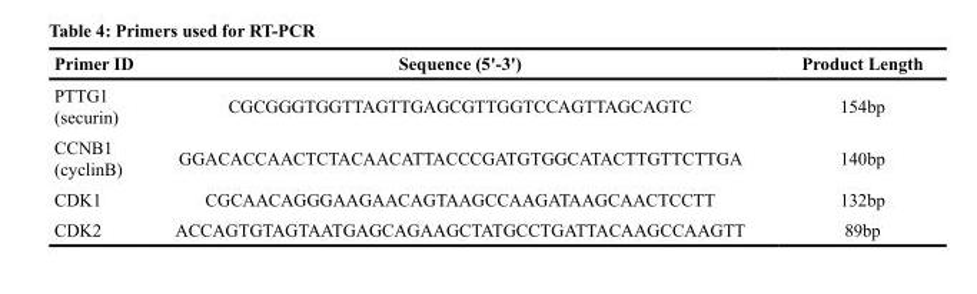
<table><thead><tr><td>Primer ID</td><td>Sequence (5&#x27;-3&#x27;)</td><td>Product Length</td></tr></thead><tbody><tr><td>PTTG1 (securin)</td><td>CGCGGGTGGTTAGTTGAGCGTTGGTCCAGTTAGCAGTC</td><td>154bp</td></tr><tr><td>CCNB1 (cyclinB)</td><td>GGACACCAACTCTACAACATTACCCGATGTGGCATACTTGTTCTTGA</td><td>140bp</td></tr><tr><td>CDK1</td><td>CGCAACAGGGAAGAACAGTAAGCCAAGATAAGCAACTCCTT</td><td>132bp</td></tr><tr><td>CDK2</td><td>ACCAGTGTAGTAATGAGCAGAAGCTATGCCTGATTACAAGCCAAGTT</td><td>89bp</td></tr></tbody></table>